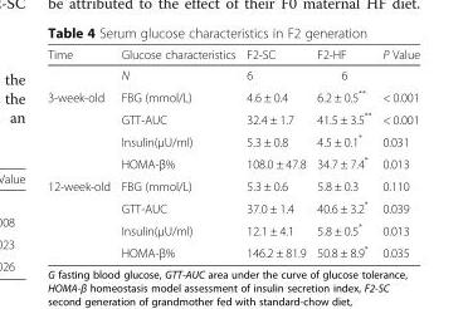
<table><thead><tr><td>Time</td><td>Glucose characteristics</td><td>F2-SC</td><td>F2-HF</td><td>P Value</td></tr></thead><tbody><tr><td></td><td>N</td><td>6</td><td>6</td><td></td></tr><tr><td rowspan="4">3-week-old</td><td>FBG (mmol/L)</td><td>4.6 ± 0.4</td><td>6.2 ± 0.5**</td><td>&lt; 0.001</td></tr><tr><td>GTT-AUC</td><td>32.4 ± 1.7</td><td>41.5 ± 3.5**</td><td>&lt; 0.001</td></tr><tr><td>Insulin(μU/ml)</td><td>5.3 ± 0.8</td><td>4.5 ± 0.1*</td><td>0.031</td></tr><tr><td>HOMA-β%</td><td>108.0 ± 47.8</td><td>34.7 ± 7.4*</td><td>0.013</td></tr><tr><td rowspan="4">12-week-old</td><td>FBG (mmol/L)</td><td>5.3 ± 0.6</td><td>5.8 ± 0.3</td><td>0.110</td></tr><tr><td>GTT-AUC</td><td>37.0 ± 1.4</td><td>40.6 ± 3.2*</td><td>0.039</td></tr><tr><td>Insulin(μU/ml)</td><td>12.1 ± 4.1</td><td>5.8 ± 0.5*</td><td>0.013</td></tr><tr><td>HOMA-β%</td><td>146.2 ± 81.9</td><td>50.8 ± 8.9*</td><td>0.035</td></tr></tbody></table>